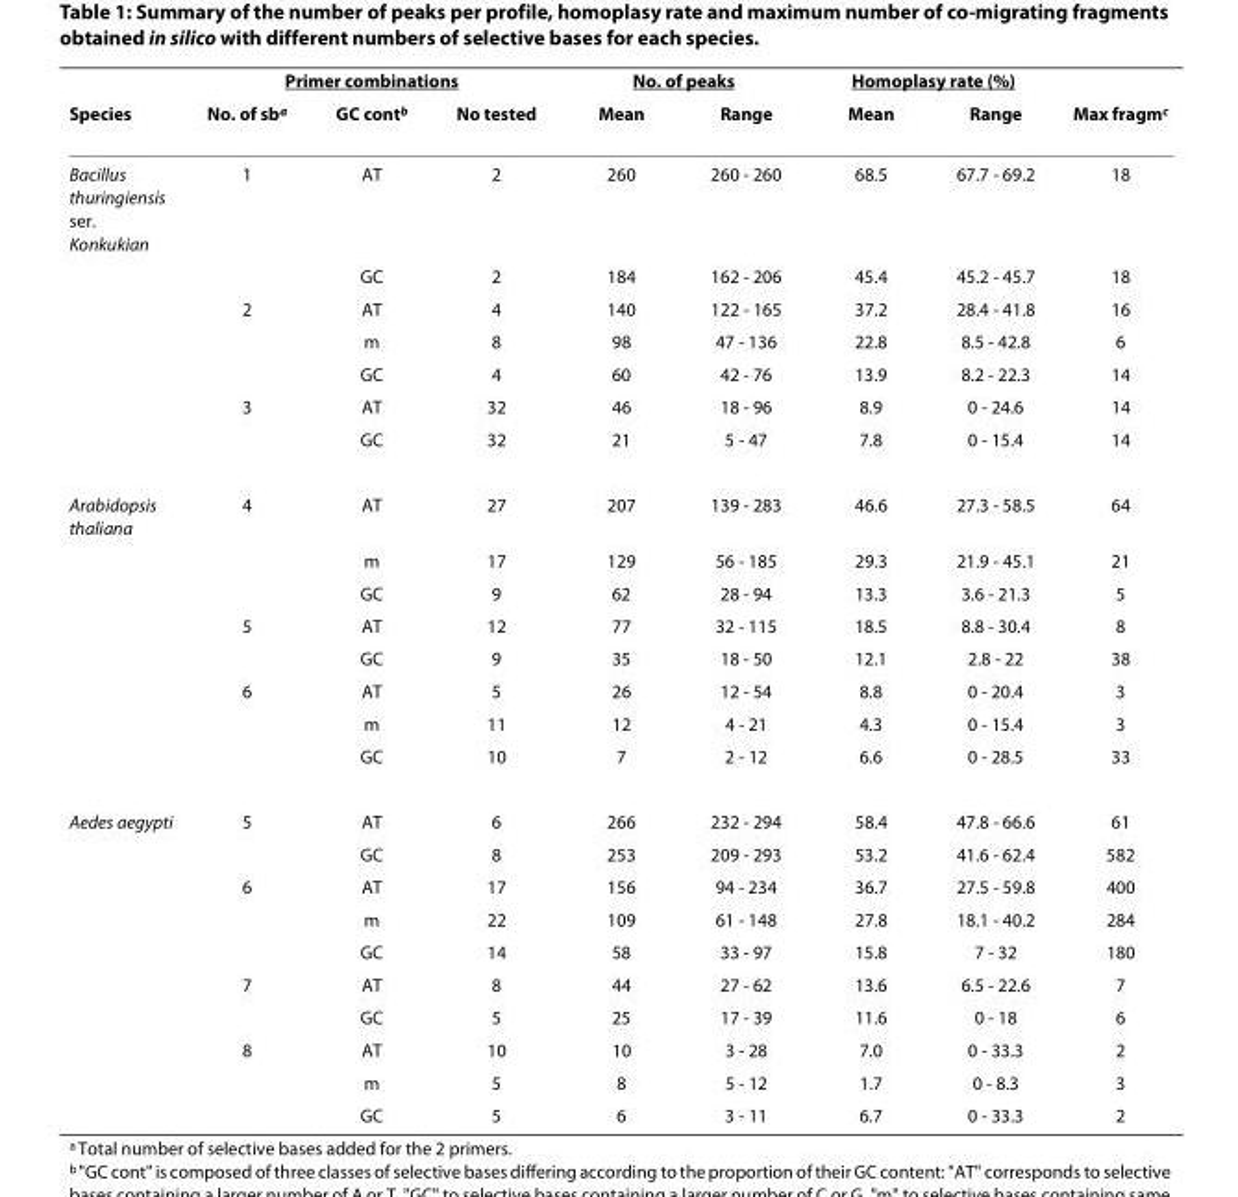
<table><thead><tr><td rowspan="2">Species</td><td colspan="3">Primer combinations</td><td colspan="2">No. of peaks</td><td colspan="2">Homoplasy rate (%)</td><td rowspan="2">Max fragm<sup>c</sup></td></tr><tr><td>No. of sb<sup>a</sup></td><td>GC cont<sup>b</sup></td><td>No tested</td><td>Mean</td><td>Range</td><td>Mean</td><td>Range</td></tr></thead><tbody><tr><td rowspan="7">Bacillus thuringiensis ser. Konkukian</td><td>1</td><td>AT</td><td>2</td><td>260</td><td>260 - 260</td><td>68.5</td><td>67.7 - 69.2</td><td>18</td></tr><tr><td></td><td>GC</td><td>2</td><td>184</td><td>162 - 206</td><td>45.4</td><td>45.2 - 45.7</td><td>18</td></tr><tr><td>2</td><td>AT</td><td>4</td><td>140</td><td>122 - 165</td><td>37.2</td><td>28.4 - 41.8</td><td>16</td></tr><tr><td></td><td>m</td><td>8</td><td>98</td><td>47 - 136</td><td>22.8</td><td>8.5 - 42.8</td><td>6</td></tr><tr><td></td><td>GC</td><td>4</td><td>60</td><td>42 - 76</td><td>13.9</td><td>8.2 - 22.3</td><td>14</td></tr><tr><td>3</td><td>AT</td><td>32</td><td>46</td><td>18 - 96</td><td>8.9</td><td>0 - 24.6</td><td>14</td></tr><tr><td></td><td>GC</td><td>32</td><td>21</td><td>5 - 47</td><td>7.8</td><td>0 - 15.4</td><td>14</td></tr><tr><td rowspan="8">Arabidopsis thaliana</td><td>4</td><td>AT</td><td>27</td><td>207</td><td>139 - 283</td><td>46.6</td><td>27.3 - 58.5</td><td>64</td></tr><tr><td></td><td>m</td><td>17</td><td>129</td><td>56 - 185</td><td>29.3</td><td>21.9 - 45.1</td><td>21</td></tr><tr><td></td><td>GC</td><td>9</td><td>62</td><td>28 - 94</td><td>13.3</td><td>3.6 - 21.3</td><td>5</td></tr><tr><td>5</td><td>AT</td><td>12</td><td>77</td><td>32 - 115</td><td>18.5</td><td>8.8 - 30.4</td><td>8</td></tr><tr><td></td><td>GC</td><td>9</td><td>35</td><td>18 - 50</td><td>12.1</td><td>2.8 - 22</td><td>38</td></tr><tr><td>6</td><td>AT</td><td>5</td><td>26</td><td>12 - 54</td><td>8.8</td><td>0 - 20.4</td><td>3</td></tr><tr><td></td><td>m</td><td>11</td><td>12</td><td>4 - 21</td><td>4.3</td><td>0 - 15.4</td><td>3</td></tr><tr><td></td><td>GC</td><td>10</td><td>7</td><td>2 - 12</td><td>6.6</td><td>0 - 28.5</td><td>33</td></tr><tr><td rowspan="10">Aedes aegypti</td><td>5</td><td>AT</td><td>6</td><td>266</td><td>232 - 294</td><td>58.4</td><td>47.8 - 66.6</td><td>61</td></tr><tr><td></td><td>GC</td><td>8</td><td>253</td><td>209 - 293</td><td>53.2</td><td>41.6 - 62.4</td><td>582</td></tr><tr><td>6</td><td>AT</td><td>17</td><td>156</td><td>94 - 234</td><td>36.7</td><td>27.5 - 59.8</td><td>400</td></tr><tr><td></td><td>m</td><td>22</td><td>109</td><td>61 - 148</td><td>27.8</td><td>18.1 - 40.2</td><td>284</td></tr><tr><td></td><td>GC</td><td>14</td><td>58</td><td>33 - 97</td><td>15.8</td><td>7 - 32</td><td>180</td></tr><tr><td>7</td><td>AT</td><td>8</td><td>44</td><td>27 - 62</td><td>13.6</td><td>6.5 - 22.6</td><td>7</td></tr><tr><td></td><td>GC</td><td>5</td><td>25</td><td>17 - 39</td><td>11.6</td><td>0 - 18</td><td>6</td></tr><tr><td>8</td><td>AT</td><td>10</td><td>10</td><td>3 - 28</td><td>7.0</td><td>0 - 33.3</td><td>2</td></tr><tr><td></td><td>m</td><td>5</td><td>8</td><td>5 - 12</td><td>1.7</td><td>0 - 8.3</td><td>3</td></tr><tr><td></td><td>GC</td><td>5</td><td>6</td><td>3 - 11</td><td>6.7</td><td>0 - 33.3</td><td>2</td></tr></tbody></table>